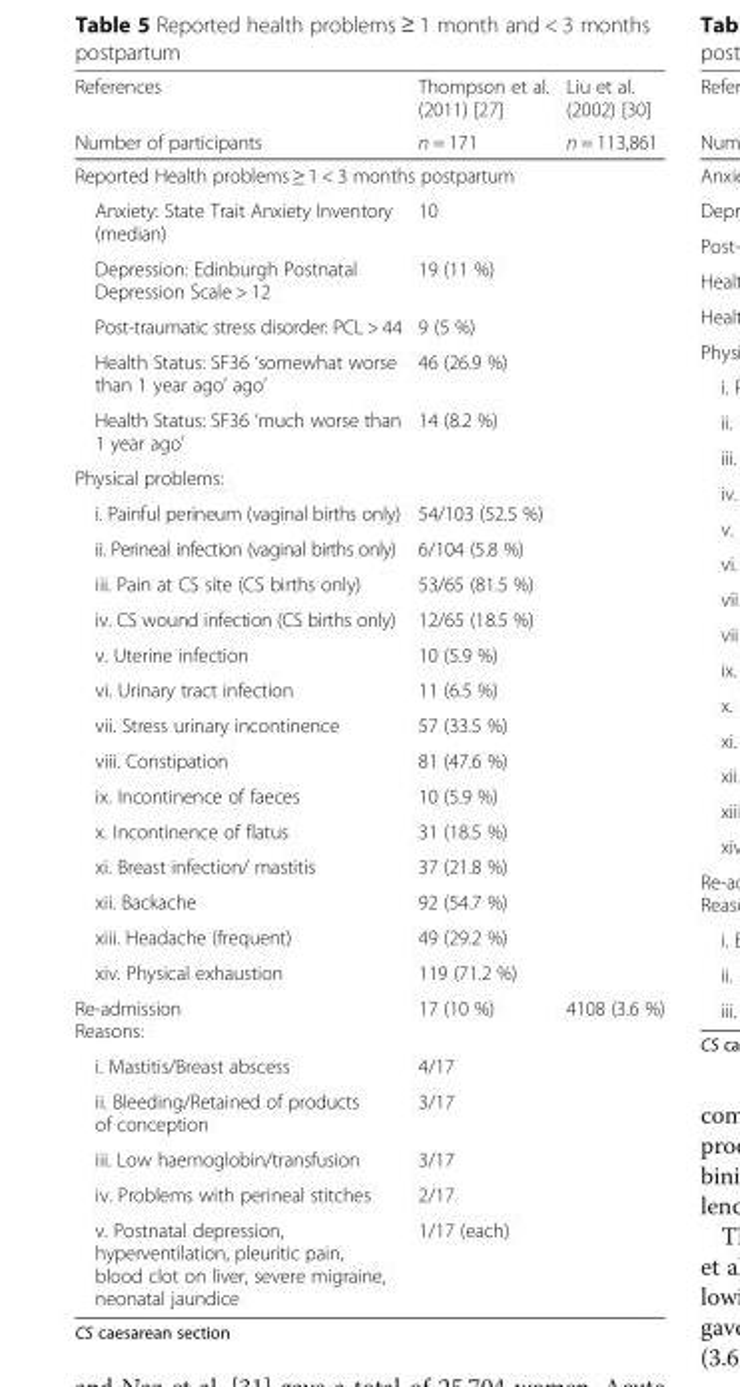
<table><thead><tr><td rowspan="2">References Number of participants</td><td rowspan="2">Thompson et al. (2011) [27] n = 171</td><td rowspan="2">Liu et al. (2002) [30] n = 113,861</td></tr><tr></tr></thead><tbody><tr><td colspan="3">Reported Health problems ≥ 1 &lt; 3 months postpartum</td></tr><tr><td>Anxiety: State Trait Anxiety Inventory (median)</td><td>10</td><td></td></tr><tr><td>Depression: Edinburgh Postnatal Depression Scale &gt; 12</td><td>19 (11 %)</td><td></td></tr><tr><td>Post-traumatic stress disorder: PCL &gt; 44</td><td>9 (5 %)</td><td></td></tr><tr><td>Health Status: SF36 ‘somewhat worse than 1 year ago’ ago’</td><td>46 (26.9 %)</td><td></td></tr><tr><td>Health Status: SF36 ‘much worse than 1 year ago’</td><td>14 (8.2 %)</td><td></td></tr><tr><td colspan="3">Physical problems:</td></tr><tr><td>i. Painful perineum (vaginal births only)</td><td>54/103 (52.5 %)</td><td></td></tr><tr><td>ii. Perineal infection (vaginal births only)</td><td>6/104 (5.8 %)</td><td></td></tr><tr><td>iii. Pain at CS site (CS births only)</td><td>53/65 (81.5 %)</td><td></td></tr><tr><td>iv. CS wound infection (CS births only)</td><td>12/65 (18.5 %)</td><td></td></tr><tr><td>v. Uterine infection</td><td>10 (5.9 %)</td><td></td></tr><tr><td>vi. Urinary tract infection</td><td>11 (6.5 %)</td><td></td></tr><tr><td>vii. Stress urinary incontinence</td><td>57 (33.5 %)</td><td></td></tr><tr><td>viii. Constipation</td><td>81 (47.6 %)</td><td></td></tr><tr><td>ix. Incontinence of faeces</td><td>10 (5.9 %)</td><td></td></tr><tr><td>x. Incontinence of flatus</td><td>31 (18.5 %)</td><td></td></tr><tr><td>xi. Breast infection/ mastitis</td><td>37 (21.8 %)</td><td></td></tr><tr><td>xii. Backache</td><td>92 (54.7 %)</td><td></td></tr><tr><td>xiii. Headache (frequent)</td><td>49 (29.2 %)</td><td></td></tr><tr><td>xiv. Physical exhaustion</td><td>119 (71.2 %)</td><td></td></tr><tr><td>Re-admission Reasons:</td><td>17 (10 %)</td><td>4108 (3.6 %)</td></tr><tr><td>i. Mastitis/Breast abscess</td><td>4/17</td><td></td></tr><tr><td>ii. Bleeding/Retained of products of conception</td><td>3/17</td><td></td></tr><tr><td>iii. Low haemoglobin/transfusion</td><td>3/17</td><td></td></tr><tr><td>iv. Problems with perineal stitches</td><td>2/17</td><td></td></tr><tr><td>v. Postnatal depression, hyperventilation, pleuritic pain, blood clot on liver, severe migraine, neonatal jaundice</td><td>1/17 (each)</td><td></td></tr></tbody></table>